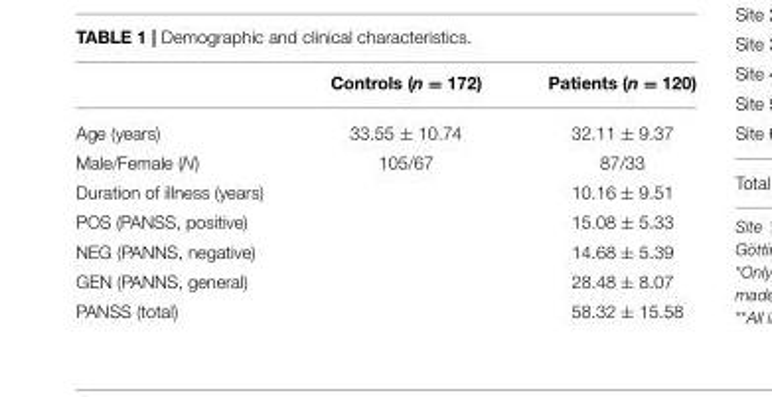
<table><thead><tr><td></td><td>Controls (n = 172)</td><td>Patients (n = 120)</td></tr></thead><tbody><tr><td>Age (years)</td><td>33.55 ± 10.74</td><td>32.11 ± 9.37</td></tr><tr><td>Male/Female (N)</td><td>105/67</td><td>87/33</td></tr><tr><td>Duration of illness (years)</td><td></td><td>10.16 ± 9.51</td></tr><tr><td>POS (PANSS, positive)</td><td></td><td>15.08 ± 5.33</td></tr><tr><td>NEG (PANNS, negative)</td><td></td><td>14.68 ± 5.39</td></tr><tr><td>GEN (PANNS, general)</td><td></td><td>28.48 ± 8.07</td></tr><tr><td>PANSS (total)</td><td></td><td>58.32 ± 15.58</td></tr></tbody></table>